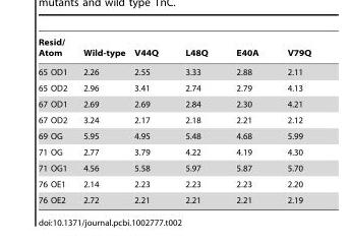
<table><thead><tr><td>Resid/ Atom</td><td>Wild-type</td><td>V44Q</td><td>L48Q</td><td>E40A</td><td>V79Q</td></tr></thead><tbody><tr><td>65 OD1</td><td>2.26</td><td>2.55</td><td>3.33</td><td>2.88</td><td>2.11</td></tr><tr><td>65 OD2</td><td>2.96</td><td>3.41</td><td>2.74</td><td>2.79</td><td>4.13</td></tr><tr><td>67 OD1</td><td>2.69</td><td>2.69</td><td>2.84</td><td>2.30</td><td>4.21</td></tr><tr><td>67 OD2</td><td>3.24</td><td>2.17</td><td>2.18</td><td>2.21</td><td>2.12</td></tr><tr><td>69 OG</td><td>5.95</td><td>4.95</td><td>5.48</td><td>4.68</td><td>5.99</td></tr><tr><td>71 OG</td><td>2.77</td><td>3.79</td><td>4.22</td><td>4.19</td><td>4.30</td></tr><tr><td>71 OG1</td><td>4.56</td><td>5.58</td><td>5.97</td><td>5.87</td><td>5.70</td></tr><tr><td>76 OE1</td><td>2.14</td><td>2.23</td><td>2.23</td><td>2.23</td><td>2.20</td></tr><tr><td>76 OE2</td><td>2.72</td><td>2.21</td><td>2.21</td><td>2.21</td><td>2.19</td></tr></tbody></table>